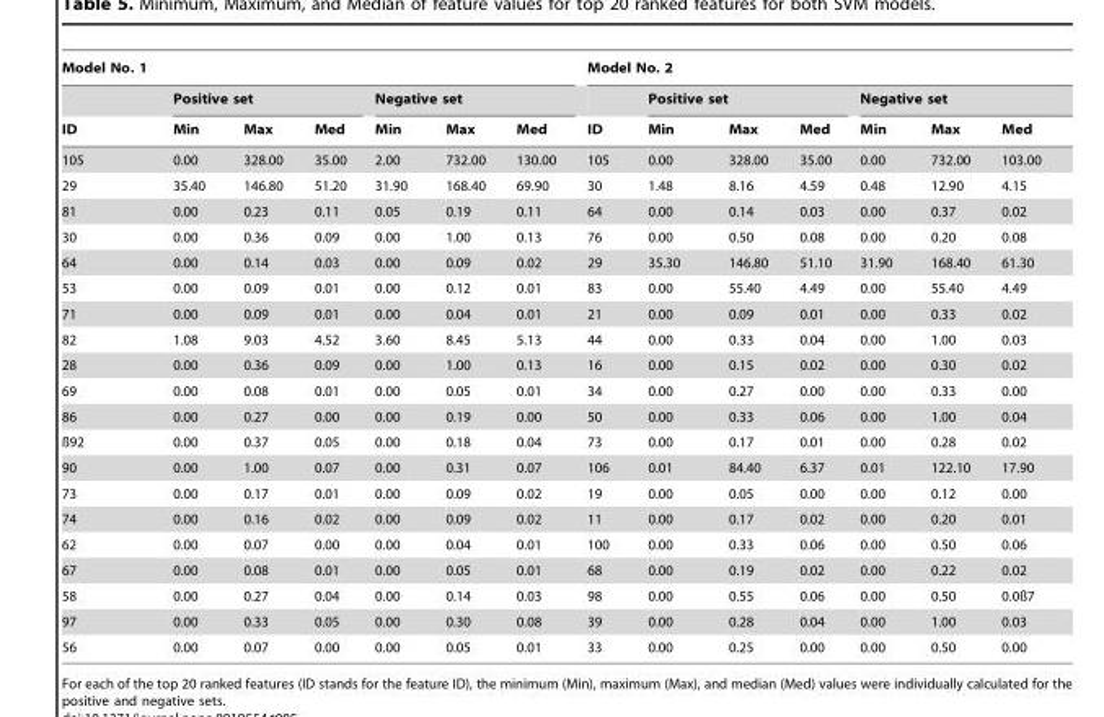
<table><thead><tr><td colspan="7">Model No. 1</td><td colspan="7">Model No. 2</td></tr><tr><td rowspan="2">ID</td><td colspan="3">Positive set</td><td colspan="3">Negative set</td><td rowspan="2">ID</td><td colspan="3">Positive set</td><td colspan="3">Negative set</td></tr><tr><td>Min</td><td>Max</td><td>Med</td><td>Min</td><td>Max</td><td>Med</td><td>Min</td><td>Max</td><td>Med</td><td>Min</td><td>Max</td><td>Med</td></tr></thead><tbody><tr><td>105</td><td>0.00</td><td>328.00</td><td>35.00</td><td>2.00</td><td>732.00</td><td>130.00</td><td>105</td><td>0.00</td><td>328.00</td><td>35.00</td><td>0.00</td><td>732.00</td><td>103.00</td></tr><tr><td>29</td><td>35.40</td><td>146.80</td><td>51.20</td><td>31.90</td><td>168.40</td><td>69.90</td><td>30</td><td>1.48</td><td>8.16</td><td>4.59</td><td>0.48</td><td>12.90</td><td>4.15</td></tr><tr><td>81</td><td>0.00</td><td>0.23</td><td>0.11</td><td>0.05</td><td>0.19</td><td>0.11</td><td>64</td><td>0.00</td><td>0.14</td><td>0.03</td><td>0.00</td><td>0.37</td><td>0.02</td></tr><tr><td>30</td><td>0.00</td><td>0.36</td><td>0.09</td><td>0.00</td><td>1.00</td><td>0.13</td><td>76</td><td>0.00</td><td>0.50</td><td>0.08</td><td>0.00</td><td>0.20</td><td>0.08</td></tr><tr><td>64</td><td>0.00</td><td>0.14</td><td>0.03</td><td>0.00</td><td>0.09</td><td>0.02</td><td>29</td><td>35.30</td><td>146.80</td><td>51.10</td><td>31.90</td><td>168.40</td><td>61.30</td></tr><tr><td>53</td><td>0.00</td><td>0.09</td><td>0.01</td><td>0.00</td><td>0.12</td><td>0.01</td><td>83</td><td>0.00</td><td>55.40</td><td>4.49</td><td>0.00</td><td>55.40</td><td>4.49</td></tr><tr><td>71</td><td>0.00</td><td>0.09</td><td>0.01</td><td>0.00</td><td>0.04</td><td>0.01</td><td>21</td><td>0.00</td><td>0.09</td><td>0.01</td><td>0.00</td><td>0.33</td><td>0.02</td></tr><tr><td>82</td><td>1.08</td><td>9.03</td><td>4.52</td><td>3.60</td><td>8.45</td><td>5.13</td><td>44</td><td>0.00</td><td>0.33</td><td>0.04</td><td>0.00</td><td>1.00</td><td>0.03</td></tr><tr><td>28</td><td>0.00</td><td>0.36</td><td>0.09</td><td>0.00</td><td>1.00</td><td>0.13</td><td>16</td><td>0.00</td><td>0.15</td><td>0.02</td><td>0.00</td><td>0.30</td><td>0.02</td></tr><tr><td>69</td><td>0.00</td><td>0.08</td><td>0.01</td><td>0.00</td><td>0.05</td><td>0.01</td><td>34</td><td>0.00</td><td>0.27</td><td>0.00</td><td>0.00</td><td>0.33</td><td>0.00</td></tr><tr><td>86</td><td>0.00</td><td>0.27</td><td>0.00</td><td>0.00</td><td>0.19</td><td>0.00</td><td>50</td><td>0.00</td><td>0.33</td><td>0.06</td><td>0.00</td><td>1.00</td><td>0.04</td></tr><tr><td>ß92</td><td>0.00</td><td>0.37</td><td>0.05</td><td>0.00</td><td>0.18</td><td>0.04</td><td>73</td><td>0.00</td><td>0.17</td><td>0.01</td><td>0.00</td><td>0.28</td><td>0.02</td></tr><tr><td>90</td><td>0.00</td><td>1.00</td><td>0.07</td><td>0.00</td><td>0.31</td><td>0.07</td><td>106</td><td>0.01</td><td>84.40</td><td>6.37</td><td>0.01</td><td>122.10</td><td>17.90</td></tr><tr><td>73</td><td>0.00</td><td>0.17</td><td>0.01</td><td>0.00</td><td>0.09</td><td>0.02</td><td>19</td><td>0.00</td><td>0.05</td><td>0.00</td><td>0.00</td><td>0.12</td><td>0.00</td></tr><tr><td>74</td><td>0.00</td><td>0.16</td><td>0.02</td><td>0.00</td><td>0.09</td><td>0.02</td><td>11</td><td>0.00</td><td>0.17</td><td>0.02</td><td>0.00</td><td>0.20</td><td>0.01</td></tr><tr><td>62</td><td>0.00</td><td>0.07</td><td>0.00</td><td>0.00</td><td>0.04</td><td>0.01</td><td>100</td><td>0.00</td><td>0.33</td><td>0.06</td><td>0.00</td><td>0.50</td><td>0.06</td></tr><tr><td>67</td><td>0.00</td><td>0.08</td><td>0.01</td><td>0.00</td><td>0.05</td><td>0.01</td><td>68</td><td>0.00</td><td>0.19</td><td>0.02</td><td>0.00</td><td>0.22</td><td>0.02</td></tr><tr><td>58</td><td>0.00</td><td>0.27</td><td>0.04</td><td>0.00</td><td>0.14</td><td>0.03</td><td>98</td><td>0.00</td><td>0.55</td><td>0.06</td><td>0.00</td><td>0.50</td><td>0.0ß7</td></tr><tr><td>97</td><td>0.00</td><td>0.33</td><td>0.05</td><td>0.00</td><td>0.30</td><td>0.08</td><td>39</td><td>0.00</td><td>0.28</td><td>0.04</td><td>0.00</td><td>1.00</td><td>0.03</td></tr><tr><td>56</td><td>0.00</td><td>0.07</td><td>0.00</td><td>0.00</td><td>0.05</td><td>0.01</td><td>33</td><td>0.00</td><td>0.25</td><td>0.00</td><td>0.00</td><td>0.50</td><td>0.00</td></tr></tbody></table>